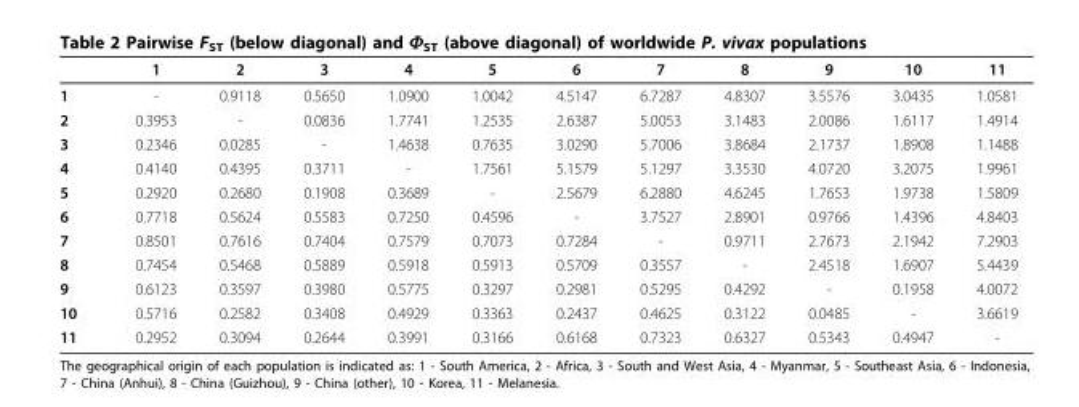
<table><thead><tr><td></td><td>1</td><td>2</td><td>3</td><td>4</td><td>5</td><td>6</td><td>7</td><td>8</td><td>9</td><td>10</td><td>11</td></tr></thead><tbody><tr><td>1</td><td>-</td><td>0.9118</td><td>0.5650</td><td>1.0900</td><td>1.0042</td><td>4.5147</td><td>6.7287</td><td>4.8307</td><td>3.5576</td><td>3.0435</td><td>1.0581</td></tr><tr><td>2</td><td>0.3953</td><td>-</td><td>0.0836</td><td>1.7741</td><td>1.2535</td><td>2.6387</td><td>5.0053</td><td>3.1483</td><td>2.0086</td><td>1.6117</td><td>1.4914</td></tr><tr><td>3</td><td>0.2346</td><td>0.0285</td><td>-</td><td>1.4638</td><td>0.7635</td><td>3.0290</td><td>5.7006</td><td>3.8684</td><td>2.1737</td><td>1.8908</td><td>1.1488</td></tr><tr><td>4</td><td>0.4140</td><td>0.4395</td><td>0.3711</td><td>-</td><td>1.7561</td><td>5.1579</td><td>5.1297</td><td>3.3530</td><td>4.0720</td><td>3.2075</td><td>1.9961</td></tr><tr><td>5</td><td>0.2920</td><td>0.2680</td><td>0.1908</td><td>0.3689</td><td>-</td><td>2.5679</td><td>6.2880</td><td>4.6245</td><td>1.7653</td><td>1.9738</td><td>1.5809</td></tr><tr><td>6</td><td>0.7718</td><td>0.5624</td><td>0.5583</td><td>0.7250</td><td>0.4596</td><td>-</td><td>3.7527</td><td>2.8901</td><td>0.9766</td><td>1.4396</td><td>4.8403</td></tr><tr><td>7</td><td>0.8501</td><td>0.7616</td><td>0.7404</td><td>0.7579</td><td>0.7073</td><td>0.7284</td><td>-</td><td>0.9711</td><td>2.7673</td><td>2.1942</td><td>7.2903</td></tr><tr><td>8</td><td>0.7454</td><td>0.5468</td><td>0.5889</td><td>0.5918</td><td>0.5913</td><td>0.5709</td><td>0.3557</td><td>-</td><td>2.4518</td><td>1.6907</td><td>5.4439</td></tr><tr><td>9</td><td>0.6123</td><td>0.3597</td><td>0.3980</td><td>0.5775</td><td>0.3297</td><td>0.2981</td><td>0.5295</td><td>0.4292</td><td>-</td><td>0.1958</td><td>4.0072</td></tr><tr><td>10</td><td>0.5716</td><td>0.2582</td><td>0.3408</td><td>0.4929</td><td>0.3363</td><td>0.2437</td><td>0.4625</td><td>0.3122</td><td>0.0485</td><td>-</td><td>3.6619</td></tr><tr><td>11</td><td>0.2952</td><td>0.3094</td><td>0.2644</td><td>0.3991</td><td>0.3166</td><td>0.6168</td><td>0.7323</td><td>0.6327</td><td>0.5343</td><td>0.4947</td><td>-</td></tr></tbody></table>